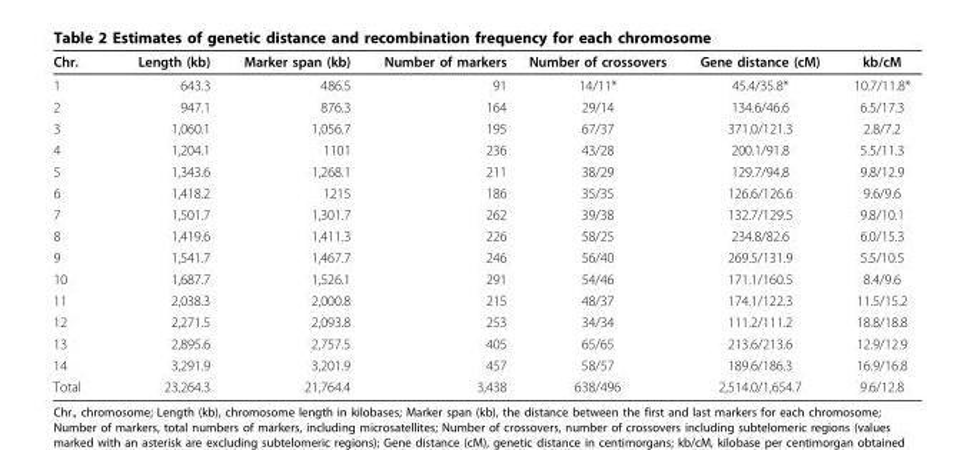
<table><thead><tr><td>Chr.</td><td>Length (kb)</td><td>Marker span (kb)</td><td>Number of markers</td><td>Number of crossovers</td><td>Gene distance (cM)</td><td>kb/cM</td></tr></thead><tbody><tr><td>1</td><td>643.3</td><td>486.5</td><td>91</td><td>14/11*</td><td>45.4/35.8*</td><td>10.7/11.8*</td></tr><tr><td>2</td><td>947.1</td><td>876.3</td><td>164</td><td>29/14</td><td>134.6/46.6</td><td>6.5/17.3</td></tr><tr><td>3</td><td>1,060.1</td><td>1,056.7</td><td>195</td><td>67/37</td><td>371.0/121.3</td><td>2.8/7.2</td></tr><tr><td>4</td><td>1,204.1</td><td>1101</td><td>236</td><td>43/28</td><td>200.1/91.8</td><td>5.5/11.3</td></tr><tr><td>5</td><td>1,343.6</td><td>1,268.1</td><td>211</td><td>38/29</td><td>129.7/94.8</td><td>9.8/12.9</td></tr><tr><td>6</td><td>1,418.2</td><td>1215</td><td>186</td><td>35/35</td><td>126.6/126.6</td><td>9.6/9.6</td></tr><tr><td>7</td><td>1,501.7</td><td>1,301.7</td><td>262</td><td>39/38</td><td>132.7/129.5</td><td>9.8/10.1</td></tr><tr><td>8</td><td>1,419.6</td><td>1,411.3</td><td>226</td><td>58/25</td><td>234.8/82.6</td><td>6.0/15.3</td></tr><tr><td>9</td><td>1,541.7</td><td>1,467.7</td><td>246</td><td>56/40</td><td>269.5/131.9</td><td>5.5/10.5</td></tr><tr><td>10</td><td>1,687.7</td><td>1,526.1</td><td>291</td><td>54/46</td><td>171.1/160.5</td><td>8.4/9.6</td></tr><tr><td>11</td><td>2,038.3</td><td>2,000.8</td><td>215</td><td>48/37</td><td>174.1/122.3</td><td>11.5/15.2</td></tr><tr><td>12</td><td>2,271.5</td><td>2,093.8</td><td>253</td><td>34/34</td><td>111.2/111.2</td><td>18.8/18.8</td></tr><tr><td>13</td><td>2,895.6</td><td>2,757.5</td><td>405</td><td>65/65</td><td>213.6/213.6</td><td>12.9/12.9</td></tr><tr><td>14</td><td>3,291.9</td><td>3,201.9</td><td>457</td><td>58/57</td><td>189.6/186.3</td><td>16.9/16.8</td></tr><tr><td>Total</td><td>23,264.3</td><td>21,764.4</td><td>3,438</td><td>638/496</td><td>2,514.0/1,654.7</td><td>9.6/12.8</td></tr></tbody></table>